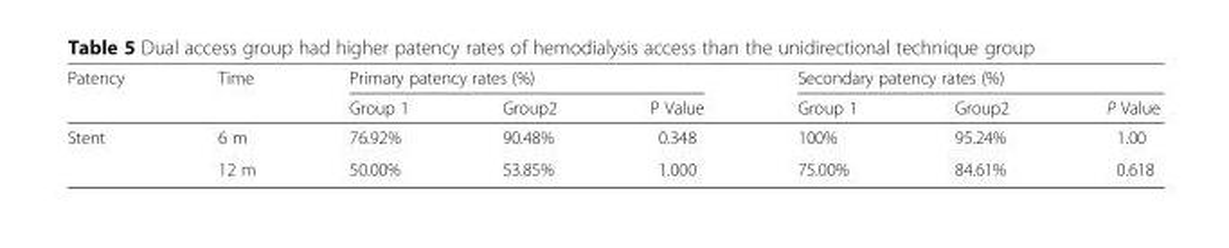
<table><thead><tr><td rowspan="2">Patency</td><td rowspan="2">Time</td><td colspan="3">Primary patency rates (%)</td><td colspan="3">Secondary patency rates (%)</td></tr><tr><td>Group 1</td><td>Group2</td><td>P Value</td><td>Group 1</td><td>Group2</td><td>P Value</td></tr></thead><tbody><tr><td rowspan="2">Stent</td><td>6 m</td><td>76.92%</td><td>90.48%</td><td>0.348</td><td>100%</td><td>95.24%</td><td>1.00</td></tr><tr><td>12 m</td><td>50.00%</td><td>53.85%</td><td>1.000</td><td>75.00%</td><td>84.61%</td><td>0.618</td></tr></tbody></table>